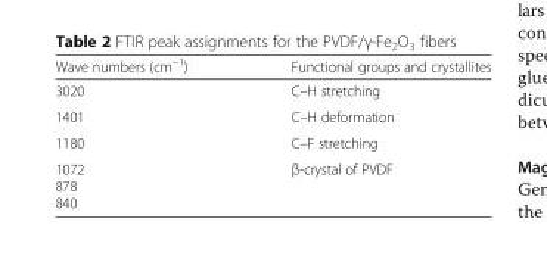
<table><thead><tr><td>Wave numbers (cm<sup>−1</sup>)</td><td>Functional groups and crystallites</td></tr></thead><tbody><tr><td>3020</td><td>C–H stretching</td></tr><tr><td>1401</td><td>C–H deformation</td></tr><tr><td>1180</td><td>C–F stretching</td></tr><tr><td>1072 878 840</td><td>β-crystal of PVDF</td></tr></tbody></table>